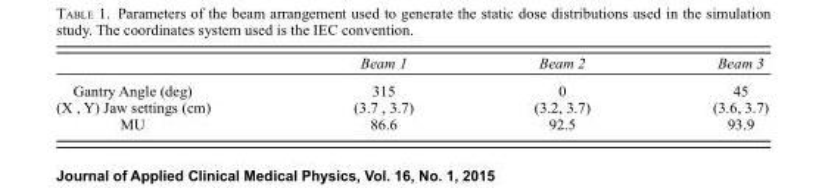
<table><thead><tr><td></td><td>Beam 1</td><td>Beam 2</td><td>Beam 3</td></tr></thead><tbody><tr><td>Gantry Angle (deg)</td><td>315</td><td>0</td><td>45</td></tr><tr><td>(X , Y) Jaw settings (cm)</td><td>(3.7 , 3.7)</td><td>(3.2, 3.7)</td><td>(3.6, 3.7)</td></tr><tr><td>MU</td><td>86.6</td><td>92.5</td><td>93.9</td></tr></tbody></table>